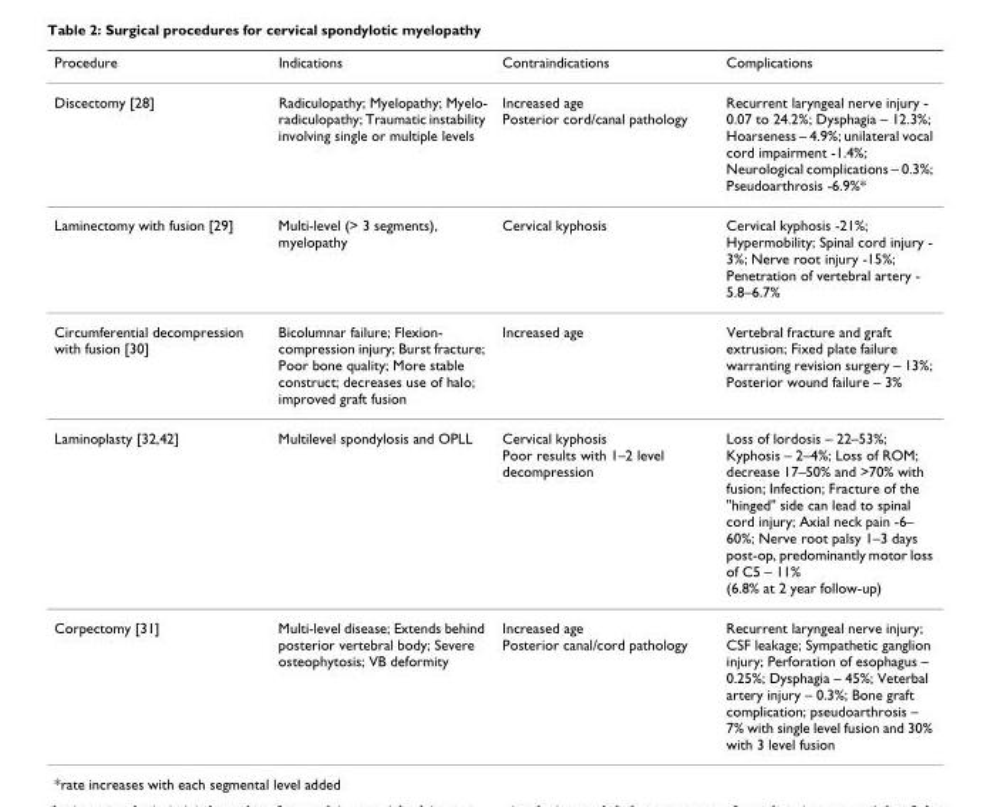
<table><thead><tr><td>Procedure</td><td>Indications</td><td>Contraindications</td><td>Complications</td></tr></thead><tbody><tr><td>Discectomy [28]</td><td>Radiculopathy; Myelopathy; Myelo- radiculopathy; Traumatic instability involving single or multiple levels</td><td>Increased age Posterior cord/canal pathology</td><td>Recurrent laryngeal nerve injury - 0.07 to 24.2%; Dysphagia – 12.3%; Hoarseness – 4.9%; unilateral vocal cord impairment -1.4%; Neurological complications – 0.3%; Pseudoarthrosis -6.9%*</td></tr><tr><td>Laminectomy with fusion [29]</td><td>Multi-level (&gt; 3 segments), myelopathy</td><td>Cervical kyphosis</td><td>Cervical kyphosis -21%; Hypermobility; Spinal cord injury - 3%; Nerve root injury -15%; Penetration of vertebral artery - 5.8–6.7%</td></tr><tr><td>Circumferential decompression with fusion [30]</td><td>Bicolumnar failure; Flexion- compression injury; Burst fracture; Poor bone quality; More stable construct; decreases use of halo; improved graft fusion</td><td>Increased age</td><td>Vertebral fracture and graft extrusion; Fixed plate failure warranting revision surgery – 13%; Posterior wound failure – 3%</td></tr><tr><td>Laminoplasty [32,42]</td><td>Multilevel spondylosis and OPLL</td><td>Cervical kyphosis Poor results with 1–2 level decompression</td><td>Loss of lordosis – 22–53%; Kyphosis – 2–4%; Loss of ROM; decrease 17–50% and &gt;70% with fusion; Infection; Fracture of the &quot;hinged&quot; side can lead to spinal cord injury; Axial neck pain -6– 60%; Nerve root palsy 1–3 days post-op, predominantly motor loss of C5 – 11% (6.8% at 2 year follow-up)</td></tr><tr><td>Corpectomy [31]</td><td>Multi-level disease; Extends behind posterior vertebral body; Severe osteophytosis; VB deformity</td><td>Increased age Posterior canal/cord pathology</td><td>Recurrent laryngeal nerve injury; CSF leakage; Sympathetic ganglion injury; Perforation of esophagus – 0.25%; Dysphagia – 45%; Veterbal artery injury – 0.3%; Bone graft complication; pseudoarthrosis – 7% with single level fusion and 30% with 3 level fusion</td></tr></tbody></table>